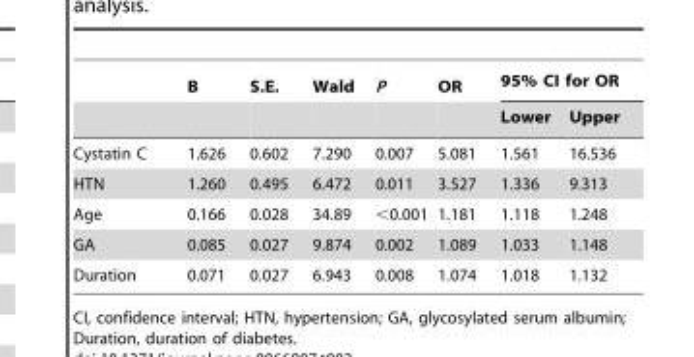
<table><thead><tr><td rowspan="2"></td><td rowspan="2">B</td><td rowspan="2">S.E.</td><td rowspan="2">Wald</td><td rowspan="2">P</td><td rowspan="2">OR</td><td colspan="2">95% CI for OR</td></tr><tr><td>Lower</td><td>Upper</td></tr></thead><tbody><tr><td>Cystatin C</td><td>1.626</td><td>0.602</td><td>7.290</td><td>0.007</td><td>5.081</td><td>1.561</td><td>16.536</td></tr><tr><td>HTN</td><td>1.260</td><td>0.495</td><td>6.472</td><td>0.011</td><td>3.527</td><td>1.336</td><td>9.313</td></tr><tr><td>Age</td><td>0.166</td><td>0.028</td><td>34.89</td><td>&lt;0.001</td><td>1.181</td><td>1.118</td><td>1.248</td></tr><tr><td>GA</td><td>0.085</td><td>0.027</td><td>9.874</td><td>0.002</td><td>1.089</td><td>1.033</td><td>1.148</td></tr><tr><td>Duration</td><td>0.071</td><td>0.027</td><td>6.943</td><td>0.008</td><td>1.074</td><td>1.018</td><td>1.132</td></tr></tbody></table>